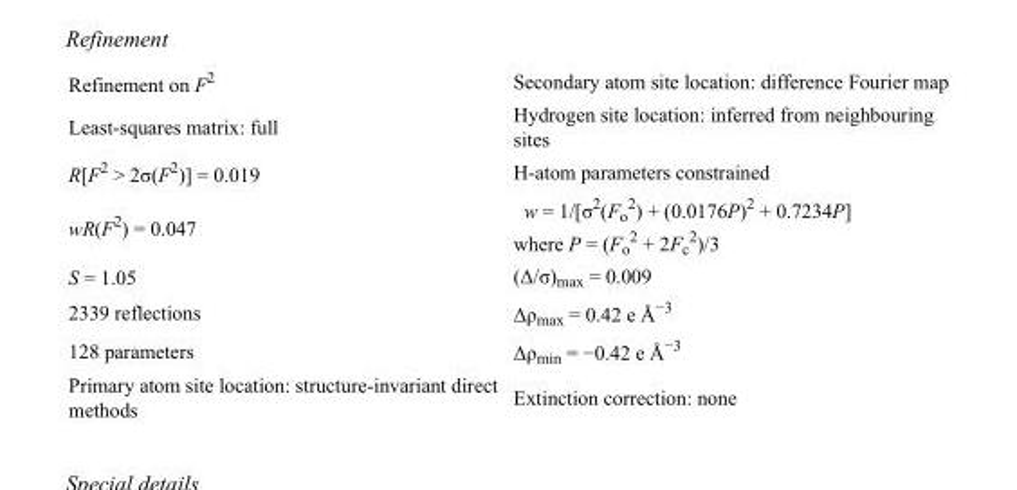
<table><tbody><tr><td>Refinement on F<sup>2</sup></td><td>Secondary atom site location: difference Fourier map</td></tr><tr><td>Least-squares matrix: full</td><td>Hydrogen site location: inferred from neighbouring sites</td></tr><tr><td>R[F<sup>2</sup> &gt; 2σ(F<sup>2</sup>)] = 0.019</td><td>H-atom parameters constrained</td></tr><tr><td>wR(F<sup>2</sup>) = 0.047</td><td>w = 1/[σ<sup>2</sup>(F<sub>o</sub> <sup>2</sup>) + (0.0176P)<sup>2</sup> + 0.7234P] where P = (F<sub>o</sub> <sup>2</sup> + 2F<sub>c</sub> <sup>2</sup>)/3</td></tr><tr><td>S = 1.05</td><td>(Δ/σ)<sub>max</sub> = 0.009</td></tr><tr><td>2339 reflections</td><td>Δρ<sub>max</sub> = 0.42 e Å<sup>−3</sup></td></tr><tr><td>128 parameters</td><td>Δρ<sub>min</sub> = −0.42 e Å<sup>−3</sup></td></tr><tr><td>Primary atom site location: structure-invariant direct methods</td><td>Extinction correction: none</td></tr></tbody></table>